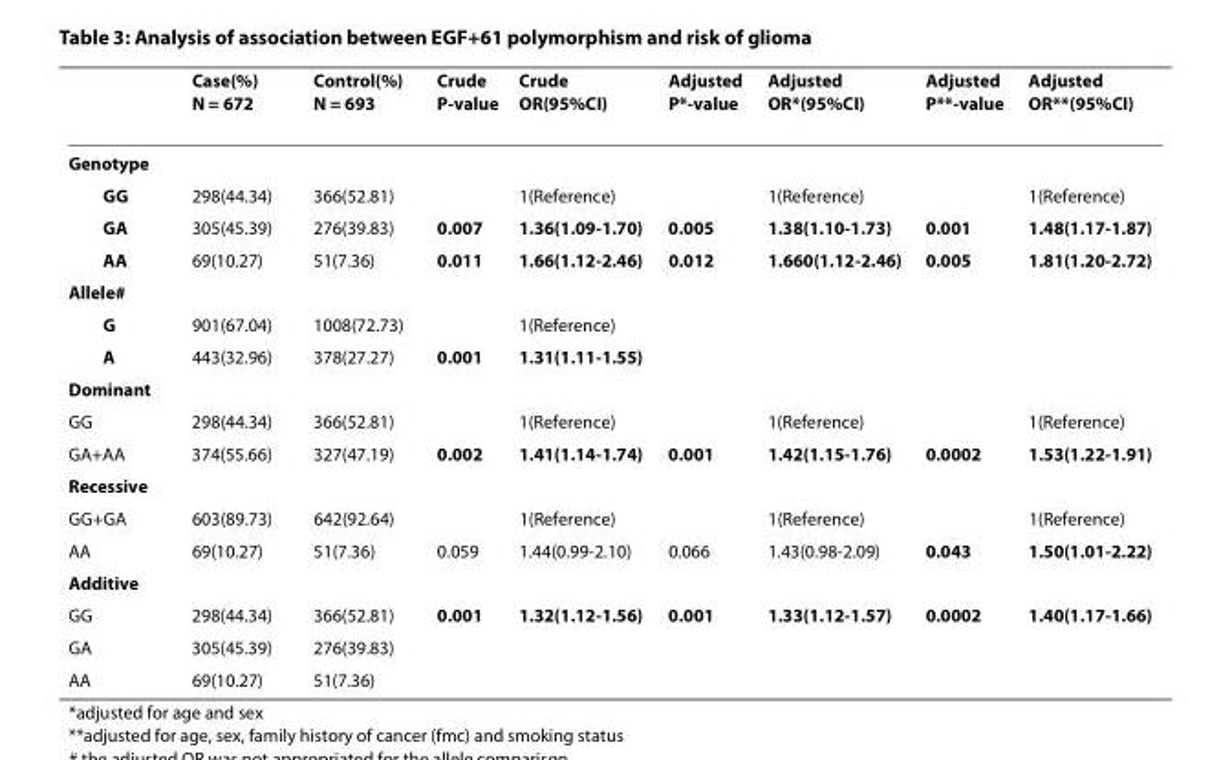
<table><thead><tr><td></td><td>Case(%) N = 672</td><td>Control(%) N = 693</td><td>Crude P-value</td><td>Crude OR(95%CI)</td><td>Adjusted P*-value</td><td>Adjusted OR*(95%CI)</td><td>Adjusted P**-value</td><td>Adjusted OR**(95%CI)</td></tr></thead><tbody><tr><td colspan="9">Genotype</td></tr><tr><td>GG</td><td>298(44.34)</td><td>366(52.81)</td><td></td><td>1(Reference)</td><td></td><td>1(Reference)</td><td></td><td>1(Reference)</td></tr><tr><td>GA</td><td>305(45.39)</td><td>276(39.83)</td><td>0.007</td><td>1.36(1.09-1.70)</td><td>0.005</td><td>1.38(1.10-1.73)</td><td>0.001</td><td>1.48(1.17-1.87)</td></tr><tr><td>AA</td><td>69(10.27)</td><td>51(7.36)</td><td>0.011</td><td>1.66(1.12-2.46)</td><td>0.012</td><td>1.660(1.12-2.46)</td><td>0.005</td><td>1.81(1.20-2.72)</td></tr><tr><td colspan="9">Allele#</td></tr><tr><td>G</td><td>901(67.04)</td><td>1008(72.73)</td><td></td><td>1(Reference)</td><td></td><td></td><td></td><td></td></tr><tr><td>A</td><td>443(32.96)</td><td>378(27.27)</td><td>0.001</td><td>1.31(1.11-1.55)</td><td></td><td></td><td></td><td></td></tr><tr><td colspan="9">Dominant</td></tr><tr><td>GG</td><td>298(44.34)</td><td>366(52.81)</td><td></td><td>1(Reference)</td><td></td><td>1(Reference)</td><td></td><td>1(Reference)</td></tr><tr><td>GA+AA</td><td>374(55.66)</td><td>327(47.19)</td><td>0.002</td><td>1.41(1.14-1.74)</td><td>0.001</td><td>1.42(1.15-1.76)</td><td>0.0002</td><td>1.53(1.22-1.91)</td></tr><tr><td colspan="9">Recessive</td></tr><tr><td>GG+GA</td><td>603(89.73)</td><td>642(92.64)</td><td></td><td>1(Reference)</td><td></td><td>1(Reference)</td><td></td><td>1(Reference)</td></tr><tr><td>AA</td><td>69(10.27)</td><td>51(7.36)</td><td>0.059</td><td>1.44(0.99-2.10)</td><td>0.066</td><td>1.43(0.98-2.09)</td><td>0.043</td><td>1.50(1.01-2.22)</td></tr><tr><td colspan="9">Additive</td></tr><tr><td>GG</td><td>298(44.34)</td><td>366(52.81)</td><td>0.001</td><td>1.32(1.12-1.56)</td><td>0.001</td><td>1.33(1.12-1.57)</td><td>0.0002</td><td>1.40(1.17-1.66)</td></tr><tr><td>GA</td><td>305(45.39)</td><td>276(39.83)</td><td></td><td></td><td></td><td></td><td></td><td></td></tr><tr><td>AA</td><td>69(10.27)</td><td>51(7.36)</td><td></td><td></td><td></td><td></td><td></td><td></td></tr></tbody></table>